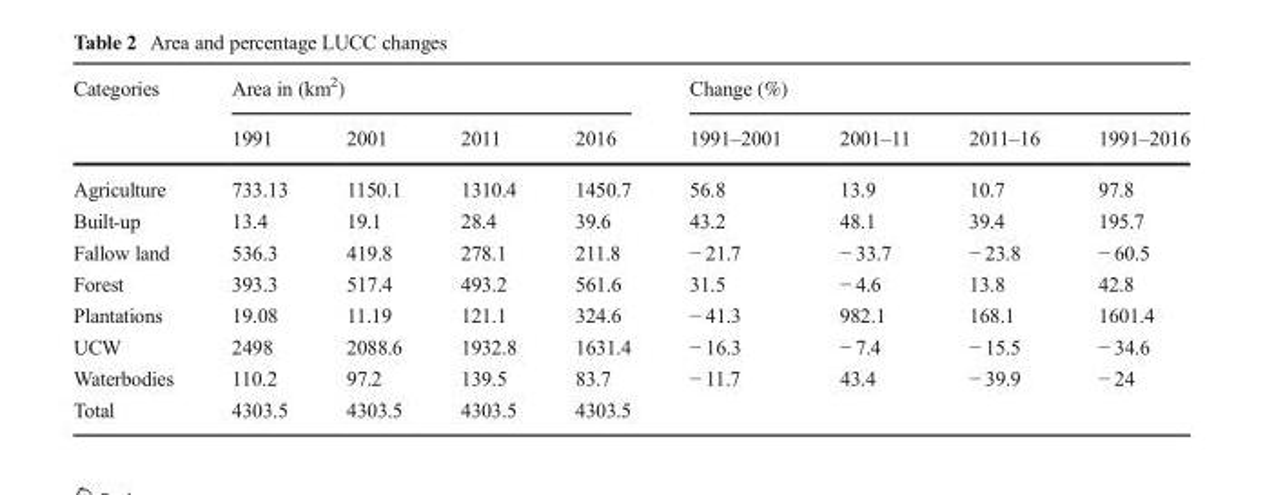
<table><thead><tr><td rowspan="2">Categories</td><td colspan="4">Area in (km<sup>2</sup>)</td><td colspan="4">Change (%)</td></tr><tr><td>1991</td><td>2001</td><td>2011</td><td>2016</td><td>1991–2001</td><td>2001–11</td><td>2011–16</td><td>1991–2016</td></tr></thead><tbody><tr><td>Agriculture</td><td>733.13</td><td>1150.1</td><td>1310.4</td><td>1450.7</td><td>56.8</td><td>13.9</td><td>10.7</td><td>97.8</td></tr><tr><td>Built-up</td><td>13.4</td><td>19.1</td><td>28.4</td><td>39.6</td><td>43.2</td><td>48.1</td><td>39.4</td><td>195.7</td></tr><tr><td>Fallow land</td><td>536.3</td><td>419.8</td><td>278.1</td><td>211.8</td><td>− 21.7</td><td>− 33.7</td><td>− 23.8</td><td>− 60.5</td></tr><tr><td>Forest</td><td>393.3</td><td>517.4</td><td>493.2</td><td>561.6</td><td>31.5</td><td>− 4.6</td><td>13.8</td><td>42.8</td></tr><tr><td>Plantations</td><td>19.08</td><td>11.19</td><td>121.1</td><td>324.6</td><td>− 41.3</td><td>982.1</td><td>168.1</td><td>1601.4</td></tr><tr><td>UCW</td><td>2498</td><td>2088.6</td><td>1932.8</td><td>1631.4</td><td>− 16.3</td><td>− 7.4</td><td>− 15.5</td><td>− 34.6</td></tr><tr><td>Waterbodies</td><td>110.2</td><td>97.2</td><td>139.5</td><td>83.7</td><td>− 11.7</td><td>43.4</td><td>− 39.9</td><td>− 24</td></tr><tr><td>Total</td><td>4303.5</td><td>4303.5</td><td>4303.5</td><td>4303.5</td><td></td><td></td><td></td><td></td></tr></tbody></table>